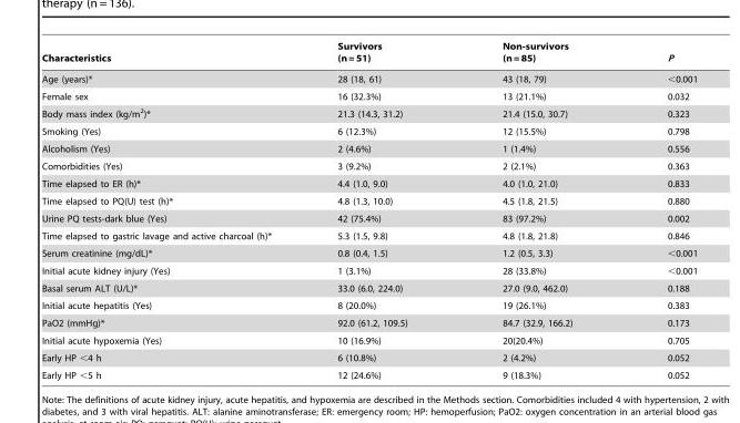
<table><thead><tr><td>Characteristics</td><td>Survivors (n = 51)</td><td>Non-survivors (n = 85)</td><td>P</td></tr></thead><tbody><tr><td>Age (years)*</td><td>28 (18, 61)</td><td>43 (18, 79)</td><td>&lt;0.001</td></tr><tr><td>Female sex</td><td>16 (32.3%)</td><td>13 (21.1%)</td><td>0.032</td></tr><tr><td>Body mass index (kg/m<sup>2</sup>)*</td><td>21.3 (14.3, 31.2)</td><td>21.4 (15.0, 30.7)</td><td>0.323</td></tr><tr><td>Smoking (Yes)</td><td>6 (12.3%)</td><td>12 (15.5%)</td><td>0.798</td></tr><tr><td>Alcoholism (Yes)</td><td>2 (4.6%)</td><td>1 (1.4%)</td><td>0.556</td></tr><tr><td>Comorbidities (Yes)</td><td>3 (9.2%)</td><td>2 (2.1%)</td><td>0.363</td></tr><tr><td>Time elapsed to ER (h)*</td><td>4.4 (1.0, 9.0)</td><td>4.0 (1.0, 21.0)</td><td>0.833</td></tr><tr><td>Time elapsed to PQ(U) test (h)*</td><td>4.8 (1.3, 10.0)</td><td>4.5 (1.8, 21.5)</td><td>0.880</td></tr><tr><td>Urine PQ tests-dark blue (Yes)</td><td>42 (75.4%)</td><td>83 (97.2%)</td><td>0.002</td></tr><tr><td>Time elapsed to gastric lavage and active charcoal (h)*</td><td>5.3 (1.5, 9.8)</td><td>4.8 (1.8, 21.8)</td><td>0.846</td></tr><tr><td>Serum creatinine (mg/dL)*</td><td>0.8 (0.4, 1.5)</td><td>1.2 (0.5, 3.3)</td><td>&lt;0.001</td></tr><tr><td>Initial acute kidney injury (Yes)</td><td>1 (3.1%)</td><td>28 (33.8%)</td><td>&lt;0.001</td></tr><tr><td>Basal serum ALT (U/L)*</td><td>33.0 (6.0, 224.0)</td><td>27.0 (9.0, 462.0)</td><td>0.188</td></tr><tr><td>Initial acute hepatitis (Yes)</td><td>8 (20.0%)</td><td>19 (26.1%)</td><td>0.383</td></tr><tr><td>PaO2 (mmHg)*</td><td>92.0 (61.2, 109.5)</td><td>84.7 (32.9, 166.2)</td><td>0.173</td></tr><tr><td>Initial acute hypoxemia (Yes)</td><td>10 (16.9%)</td><td>20(20.4%)</td><td>0.705</td></tr><tr><td>Early HP &lt;4 h</td><td>6 (10.8%)</td><td>2 (4.2%)</td><td>0.052</td></tr><tr><td>Early HP &lt;5 h</td><td>12 (24.6%)</td><td>9 (18.3%)</td><td>0.052</td></tr></tbody></table>